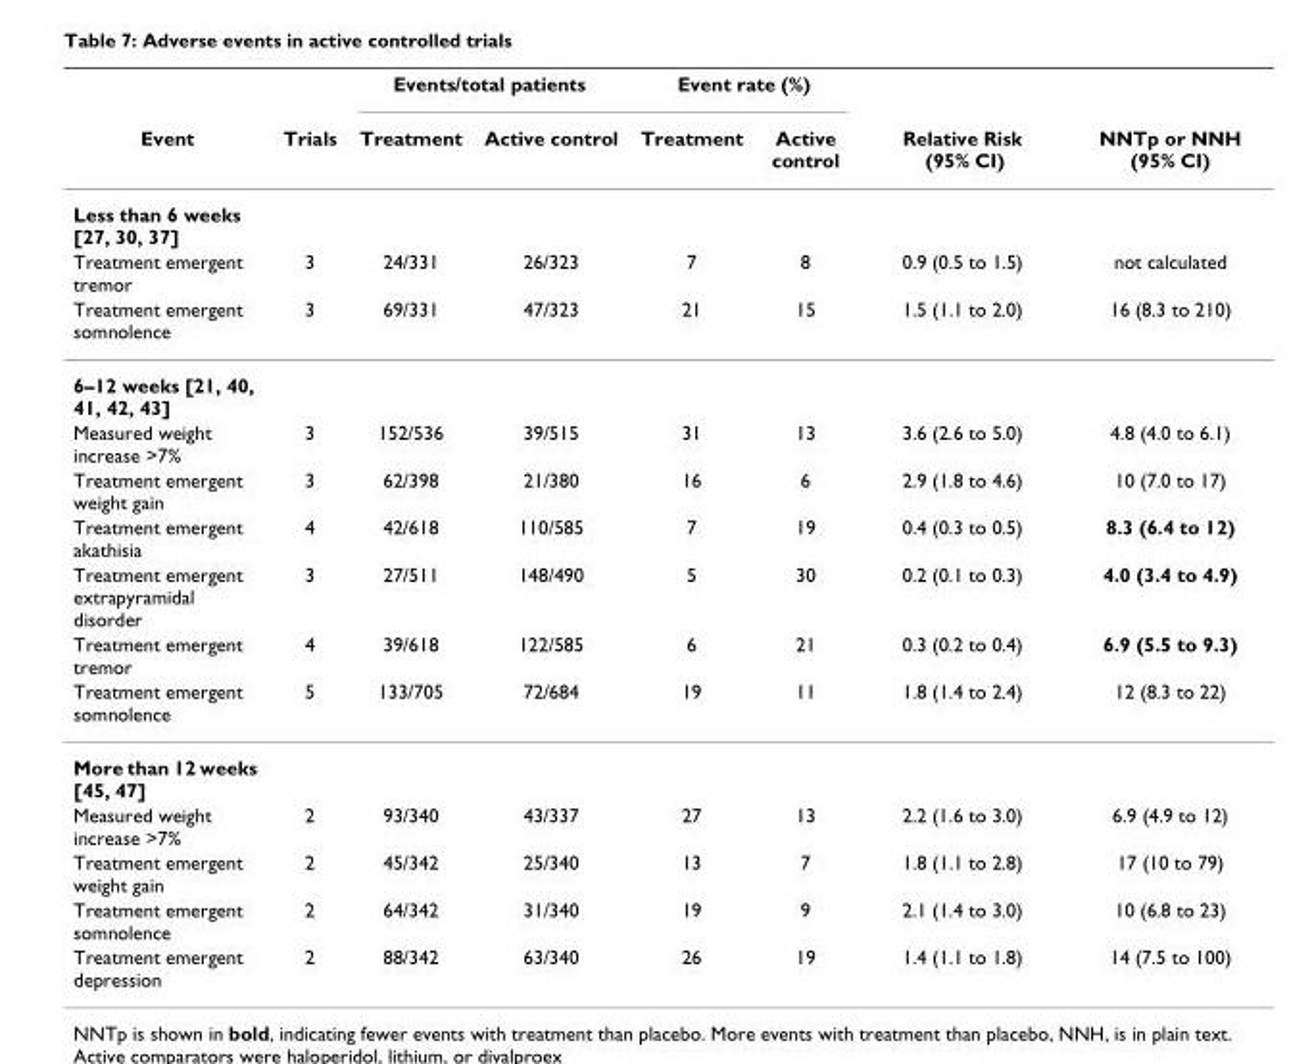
<table><thead><tr><td rowspan="2">Event</td><td rowspan="2">Trials</td><td colspan="2">Events/total patients</td><td colspan="2">Event rate (%)</td><td rowspan="2">Relative Risk (95% CI)</td><td rowspan="2">NNTp or NNH (95% CI)</td></tr><tr><td>Treatment</td><td>Active control</td><td>Treatment</td><td>Active control</td></tr></thead><tbody><tr><td colspan="8">Less than 6 weeks [27, 30, 37]</td></tr><tr><td>Treatment emergent tremor</td><td>3</td><td>24/331</td><td>26/323</td><td>7</td><td>8</td><td>0.9 (0.5 to 1.5)</td><td>not calculated</td></tr><tr><td>Treatment emergent somnolence</td><td>3</td><td>69/331</td><td>47/323</td><td>21</td><td>15</td><td>1.5 (1.1 to 2.0)</td><td>16 (8.3 to 210)</td></tr><tr><td colspan="8">6–12 weeks [21, 40, 41, 42, 43]</td></tr><tr><td>Measured weight increase &gt;7%</td><td>3</td><td>152/536</td><td>39/515</td><td>31</td><td>13</td><td>3.6 (2.6 to 5.0)</td><td>4.8 (4.0 to 6.1)</td></tr><tr><td>Treatment emergent weight gain</td><td>3</td><td>62/398</td><td>21/380</td><td>16</td><td>6</td><td>2.9 (1.8 to 4.6)</td><td>10 (7.0 to 17)</td></tr><tr><td>Treatment emergent akathisia</td><td>4</td><td>42/618</td><td>110/585</td><td>7</td><td>19</td><td>0.4 (0.3 to 0.5)</td><td>8.3 (6.4 to 12)</td></tr><tr><td>Treatment emergent extrapyramidal disorder</td><td>3</td><td>27/511</td><td>148/490</td><td>5</td><td>30</td><td>0.2 (0.1 to 0.3)</td><td>4.0 (3.4 to 4.9)</td></tr><tr><td>Treatment emergent tremor</td><td>4</td><td>39/618</td><td>122/585</td><td>6</td><td>21</td><td>0.3 (0.2 to 0.4)</td><td>6.9 (5.5 to 9.3)</td></tr><tr><td>Treatment emergent somnolence</td><td>5</td><td>133/705</td><td>72/684</td><td>19</td><td>11</td><td>1.8 (1.4 to 2.4)</td><td>12 (8.3 to 22)</td></tr><tr><td colspan="8">More than 12 weeks [45, 47]</td></tr><tr><td>Measured weight increase &gt;7%</td><td>2</td><td>93/340</td><td>43/337</td><td>27</td><td>13</td><td>2.2 (1.6 to 3.0)</td><td>6.9 (4.9 to 12)</td></tr><tr><td>Treatment emergent weight gain</td><td>2</td><td>45/342</td><td>25/340</td><td>13</td><td>7</td><td>1.8 (1.1 to 2.8)</td><td>17 (10 to 79)</td></tr><tr><td>Treatment emergent somnolence</td><td>2</td><td>64/342</td><td>31/340</td><td>19</td><td>9</td><td>2.1 (1.4 to 3.0)</td><td>10 (6.8 to 23)</td></tr><tr><td>Treatment emergent depression</td><td>2</td><td>88/342</td><td>63/340</td><td>26</td><td>19</td><td>1.4 (1.1 to 1.8)</td><td>14 (7.5 to 100)</td></tr></tbody></table>